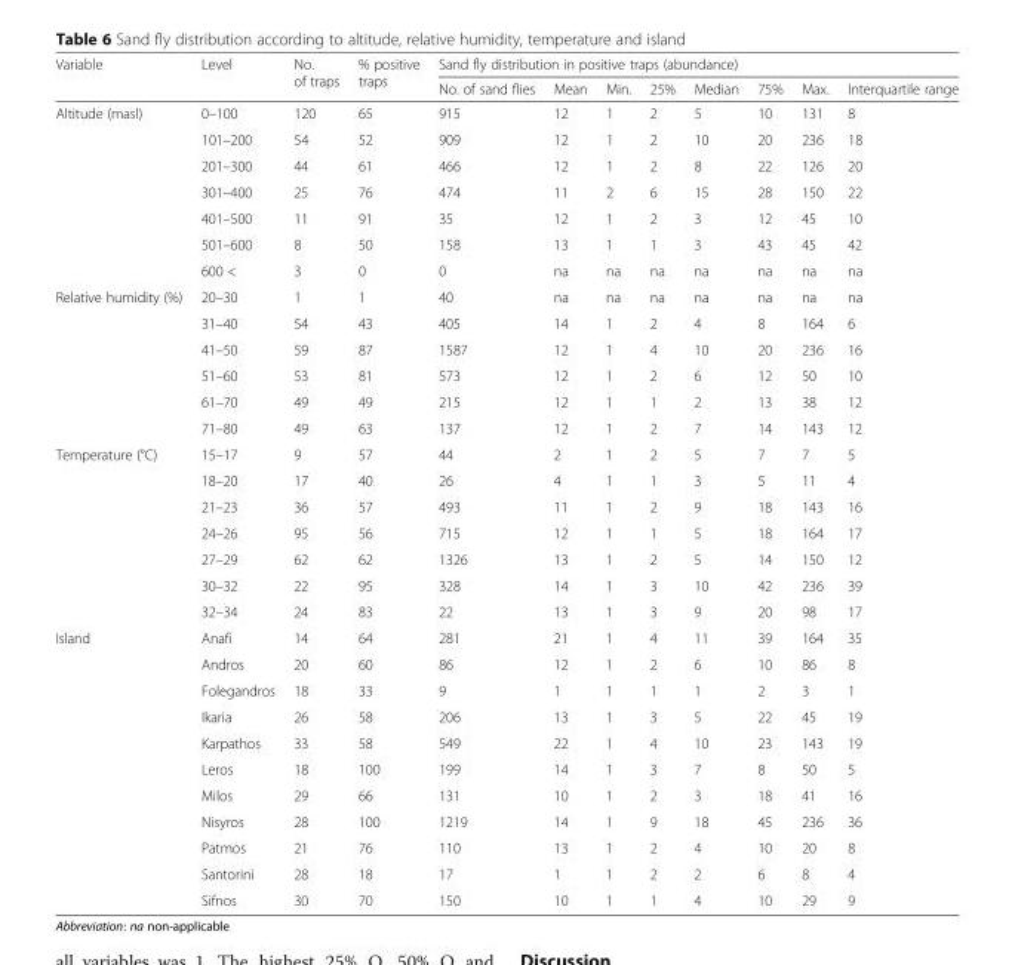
<table><thead><tr><td rowspan="2">Variable</td><td rowspan="2">Level</td><td rowspan="2">No. of traps</td><td rowspan="2">% positive traps</td><td colspan="8">Sand fly distribution in positive traps (abundance)</td></tr><tr><td>No. of sand flies</td><td>Mean</td><td>Min.</td><td>25%</td><td>Median</td><td>75%</td><td>Max.</td><td>Interquartile range</td></tr></thead><tbody><tr><td rowspan="7">Altitude (masl)</td><td>0–100</td><td>120</td><td>65</td><td>915</td><td>12</td><td>1</td><td>2</td><td>5</td><td>10</td><td>131</td><td>8</td></tr><tr><td>101–200</td><td>54</td><td>52</td><td>909</td><td>12</td><td>1</td><td>2</td><td>10</td><td>20</td><td>236</td><td>18</td></tr><tr><td>201–300</td><td>44</td><td>61</td><td>466</td><td>12</td><td>1</td><td>2</td><td>8</td><td>22</td><td>126</td><td>20</td></tr><tr><td>301–400</td><td>25</td><td>76</td><td>474</td><td>11</td><td>2</td><td>6</td><td>15</td><td>28</td><td>150</td><td>22</td></tr><tr><td>401–500</td><td>11</td><td>91</td><td>35</td><td>12</td><td>1</td><td>2</td><td>3</td><td>12</td><td>45</td><td>10</td></tr><tr><td>501–600</td><td>8</td><td>50</td><td>158</td><td>13</td><td>1</td><td>1</td><td>3</td><td>43</td><td>45</td><td>42</td></tr><tr><td>600 &lt;</td><td>3</td><td>0</td><td>0</td><td>na</td><td>na</td><td>na</td><td>na</td><td>na</td><td>na</td><td>na</td></tr><tr><td rowspan="6">Relative humidity (%)</td><td>20–30</td><td>1</td><td>1</td><td>40</td><td>na</td><td>na</td><td>na</td><td>na</td><td>na</td><td>na</td><td>na</td></tr><tr><td>31–40</td><td>54</td><td>43</td><td>405</td><td>14</td><td>1</td><td>2</td><td>4</td><td>8</td><td>164</td><td>6</td></tr><tr><td>41–50</td><td>59</td><td>87</td><td>1587</td><td>12</td><td>1</td><td>4</td><td>10</td><td>20</td><td>236</td><td>16</td></tr><tr><td>51–60</td><td>53</td><td>81</td><td>573</td><td>12</td><td>1</td><td>2</td><td>6</td><td>12</td><td>50</td><td>10</td></tr><tr><td>61–70</td><td>49</td><td>49</td><td>215</td><td>12</td><td>1</td><td>1</td><td>2</td><td>13</td><td>38</td><td>12</td></tr><tr><td>71–80</td><td>49</td><td>63</td><td>137</td><td>12</td><td>1</td><td>2</td><td>7</td><td>14</td><td>143</td><td>12</td></tr><tr><td rowspan="7">Temperature (°C)</td><td>15–17</td><td>9</td><td>57</td><td>44</td><td>2</td><td>1</td><td>2</td><td>5</td><td>7</td><td>7</td><td>5</td></tr><tr><td>18–20</td><td>17</td><td>40</td><td>26</td><td>4</td><td>1</td><td>1</td><td>3</td><td>5</td><td>11</td><td>4</td></tr><tr><td>21–23</td><td>36</td><td>57</td><td>493</td><td>11</td><td>1</td><td>2</td><td>9</td><td>18</td><td>143</td><td>16</td></tr><tr><td>24–26</td><td>95</td><td>56</td><td>715</td><td>12</td><td>1</td><td>1</td><td>5</td><td>18</td><td>164</td><td>17</td></tr><tr><td>27–29</td><td>62</td><td>62</td><td>1326</td><td>13</td><td>1</td><td>2</td><td>5</td><td>14</td><td>150</td><td>12</td></tr><tr><td>30–32</td><td>22</td><td>95</td><td>328</td><td>14</td><td>1</td><td>3</td><td>10</td><td>42</td><td>236</td><td>39</td></tr><tr><td>32–34</td><td>24</td><td>83</td><td>22</td><td>13</td><td>1</td><td>3</td><td>9</td><td>20</td><td>98</td><td>17</td></tr><tr><td rowspan="11">Island</td><td>Anafi</td><td>14</td><td>64</td><td>281</td><td>21</td><td>1</td><td>4</td><td>11</td><td>39</td><td>164</td><td>35</td></tr><tr><td>Andros</td><td>20</td><td>60</td><td>86</td><td>12</td><td>1</td><td>2</td><td>6</td><td>10</td><td>86</td><td>8</td></tr><tr><td>Folegandros</td><td>18</td><td>33</td><td>9</td><td>1</td><td>1</td><td>1</td><td>1</td><td>2</td><td>3</td><td>1</td></tr><tr><td>Ikaria</td><td>26</td><td>58</td><td>206</td><td>13</td><td>1</td><td>3</td><td>5</td><td>22</td><td>45</td><td>19</td></tr><tr><td>Karpathos</td><td>33</td><td>58</td><td>549</td><td>22</td><td>1</td><td>4</td><td>10</td><td>23</td><td>143</td><td>19</td></tr><tr><td>Leros</td><td>18</td><td>100</td><td>199</td><td>14</td><td>1</td><td>3</td><td>7</td><td>8</td><td>50</td><td>5</td></tr><tr><td>Milos</td><td>29</td><td>66</td><td>131</td><td>10</td><td>1</td><td>2</td><td>3</td><td>18</td><td>41</td><td>16</td></tr><tr><td>Nisyros</td><td>28</td><td>100</td><td>1219</td><td>14</td><td>1</td><td>9</td><td>18</td><td>45</td><td>236</td><td>36</td></tr><tr><td>Patmos</td><td>21</td><td>76</td><td>110</td><td>13</td><td>1</td><td>2</td><td>4</td><td>10</td><td>20</td><td>8</td></tr><tr><td>Santorini</td><td>28</td><td>18</td><td>17</td><td>1</td><td>1</td><td>2</td><td>2</td><td>6</td><td>8</td><td>4</td></tr><tr><td>Sifnos</td><td>30</td><td>70</td><td>150</td><td>10</td><td>1</td><td>1</td><td>4</td><td>10</td><td>29</td><td>9</td></tr></tbody></table>